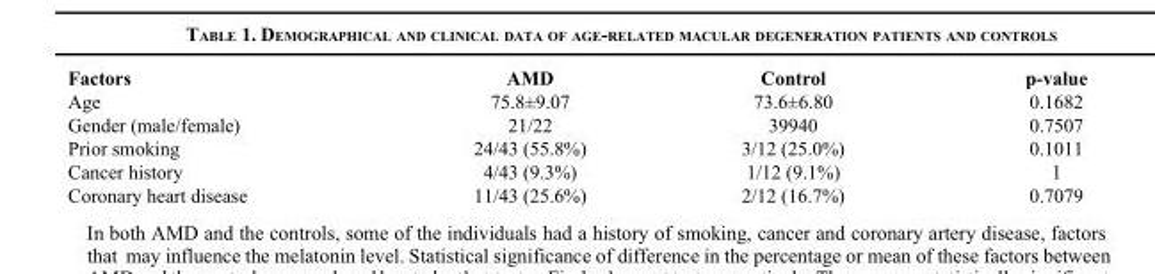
<table><thead><tr><td>Factors</td><td>AMD</td><td>Control</td><td>p-value</td></tr></thead><tbody><tr><td>Age</td><td>75.8±9.07</td><td>73.6±6.80</td><td>0.1682</td></tr><tr><td>Gender (male/female)</td><td>21/22</td><td>39940</td><td>0.7507</td></tr><tr><td>Prior smoking</td><td>24/43 (55.8%)</td><td>3/12 (25.0%)</td><td>0.1011</td></tr><tr><td>Cancer history</td><td>4/43 (9.3%)</td><td>1/12 (9.1%)</td><td>1</td></tr><tr><td>Coronary heart disease</td><td>11/43 (25.6%)</td><td>2/12 (16.7%)</td><td>0.7079</td></tr></tbody></table>